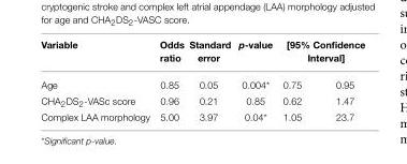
<table><thead><tr><td rowspan="2">Variable Age</td><td rowspan="2">Odds ratio 0.85</td><td rowspan="2">Standard error 0.05</td><td rowspan="2">p-value 0.004*</td><td colspan="2">[95% Confidence Interval]</td></tr><tr><td>0.75</td><td>0.95</td></tr></thead><tbody><tr><td>CHA<sub>2</sub>DS<sub>2</sub>-VASc score</td><td>0.96</td><td>0.21</td><td>0.85</td><td>0.62</td><td>1.47</td></tr><tr><td>Complex LAA morphology</td><td>5.00</td><td>3.97</td><td>0.04*</td><td>1.05</td><td>23.7</td></tr></tbody></table>